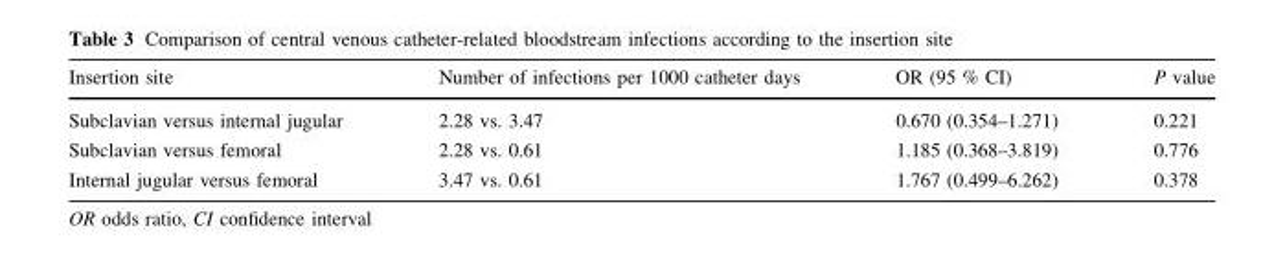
<table><thead><tr><td>Insertion site</td><td>Number of infections per 1000 catheter days</td><td>OR (95 % CI)</td><td>P value</td></tr></thead><tbody><tr><td>Subclavian versus internal jugular</td><td>2.28 vs. 3.47</td><td>0.670 (0.354–1.271)</td><td>0.221</td></tr><tr><td>Subclavian versus femoral</td><td>2.28 vs. 0.61</td><td>1.185 (0.368–3.819)</td><td>0.776</td></tr><tr><td>Internal jugular versus femoral</td><td>3.47 vs. 0.61</td><td>1.767 (0.499–6.262)</td><td>0.378</td></tr></tbody></table>